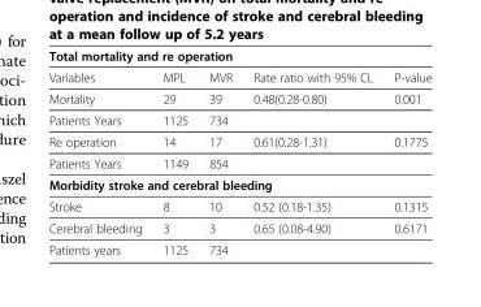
<table><thead><tr><td colspan="5">Total mortality and re operation</td></tr><tr><td>Variables</td><td>MPL</td><td>MVR</td><td>Rate ratio with 95% CL</td><td>P-value</td></tr></thead><tbody><tr><td>Mortality</td><td>29</td><td>39</td><td>0.48(0.28-0.80)</td><td>0.001</td></tr><tr><td>Patients Years</td><td>1125</td><td>734</td><td></td><td></td></tr><tr><td>Re operation</td><td>14</td><td>17</td><td>0.61(0.28-1.31)</td><td>0.1775</td></tr><tr><td>Patients Years</td><td>1149</td><td>854</td><td></td><td></td></tr><tr><td colspan="5">Morbidity stroke and cerebral bleeding</td></tr><tr><td>Stroke</td><td>8</td><td>10</td><td>0.52 (0.18-1.35)</td><td>0.1315</td></tr><tr><td>Cerebral bleeding</td><td>3</td><td>3</td><td>0.65 (0.08-4.90)</td><td>0.6171</td></tr><tr><td>Patients years</td><td>1125</td><td>734</td><td></td><td></td></tr></tbody></table>